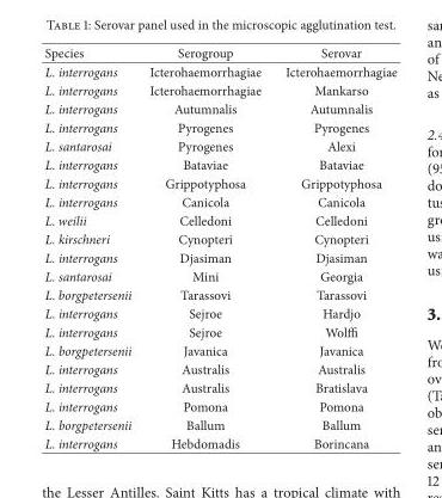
<table><thead><tr><td>Species</td><td>Serogroup</td><td>Serovar</td></tr></thead><tbody><tr><td>L. interrogans</td><td>Icterohaemorrhagiae</td><td>Icterohaemorrhagiae</td></tr><tr><td>L. interrogans</td><td>Icterohaemorrhagiae</td><td>Mankarso</td></tr><tr><td>L. interrogans</td><td>Autumnalis</td><td>Autumnalis</td></tr><tr><td>L. interrogans</td><td>Pyrogenes</td><td>Pyrogenes</td></tr><tr><td>L. santarosai</td><td>Pyrogenes</td><td>Alexi</td></tr><tr><td>L. interrogans</td><td>Bataviae</td><td>Bataviae</td></tr><tr><td>L. interrogans</td><td>Grippotyphosa</td><td>Grippotyphosa</td></tr><tr><td>L. interrogans</td><td>Canicola</td><td>Canicola</td></tr><tr><td>L. weilii</td><td>Celledoni</td><td>Celledoni</td></tr><tr><td>L. kirschneri</td><td>Cynopteri</td><td>Cynopteri</td></tr><tr><td>L. interrogans</td><td>Djasiman</td><td>Djasiman</td></tr><tr><td>L. santarosai</td><td>Mini</td><td>Georgia</td></tr><tr><td>L. borgpetersenii</td><td>Tarassovi</td><td>Tarassovi</td></tr><tr><td>L. interrogans</td><td>Sejroe</td><td>Hardjo</td></tr><tr><td>L. interrogans</td><td>Sejroe</td><td>Wolffi</td></tr><tr><td>L. borgpetersenii</td><td>Javanica</td><td>Javanica</td></tr><tr><td>L. interrogans</td><td>Australis</td><td>Australis</td></tr><tr><td>L. interrogans</td><td>Australis</td><td>Bratislava</td></tr><tr><td>L. interrogans</td><td>Pomona</td><td>Pomona</td></tr><tr><td>L. borgpetersenii</td><td>Ballum</td><td>Ballum</td></tr><tr><td>L. interrogans</td><td>Hebdomadis</td><td>Borincana</td></tr></tbody></table>